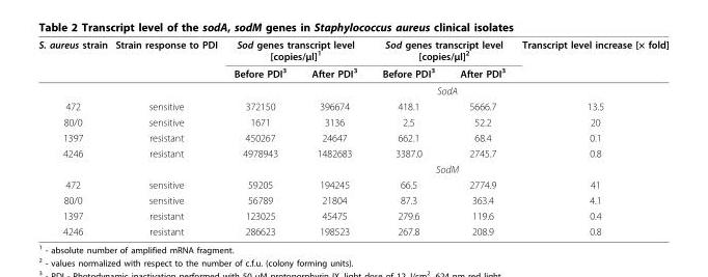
<table><thead><tr><td rowspan="2">S. aureus strain</td><td rowspan="2">Strain response to PDI</td><td colspan="2">Sod genes transcript level [copies/μl]<sup>1</sup></td><td colspan="2">Sod genes transcript level [copies/μl]<sup>2</sup></td><td rowspan="2">Transcript level increase [× fold]</td></tr><tr><td>Before PDI<sup>3</sup></td><td>After PDI<sup>3</sup></td><td>Before PDI<sup>3</sup></td><td>After PDI<sup>3</sup></td></tr></thead><tbody><tr><td></td><td></td><td colspan="5">SodA</td></tr><tr><td>472</td><td>sensitive</td><td>372150</td><td>396674</td><td>418.1</td><td>5666.7</td><td>13.5</td></tr><tr><td>80/0</td><td>sensitive</td><td>1671</td><td>3136</td><td>2.5</td><td>52.2</td><td>20</td></tr><tr><td>1397</td><td>resistant</td><td>450267</td><td>24647</td><td>662.1</td><td>68.4</td><td>0.1</td></tr><tr><td rowspan="2">4246</td><td>resistant</td><td>4978943</td><td>1482683</td><td>3387.0</td><td>2745.7</td><td>0.8</td></tr><tr><td></td><td colspan="5">SodM</td></tr><tr><td>472</td><td>sensitive</td><td>59205</td><td>194245</td><td>66.5</td><td>2774.9</td><td>41</td></tr><tr><td>80/0</td><td>sensitive</td><td>56789</td><td>21804</td><td>87.3</td><td>363.4</td><td>4.1</td></tr><tr><td>1397</td><td>resistant</td><td>123025</td><td>45475</td><td>279.6</td><td>119.6</td><td>0.4</td></tr><tr><td>4246</td><td>resistant</td><td>286623</td><td>198523</td><td>267.8</td><td>208.9</td><td>0.8</td></tr></tbody></table>